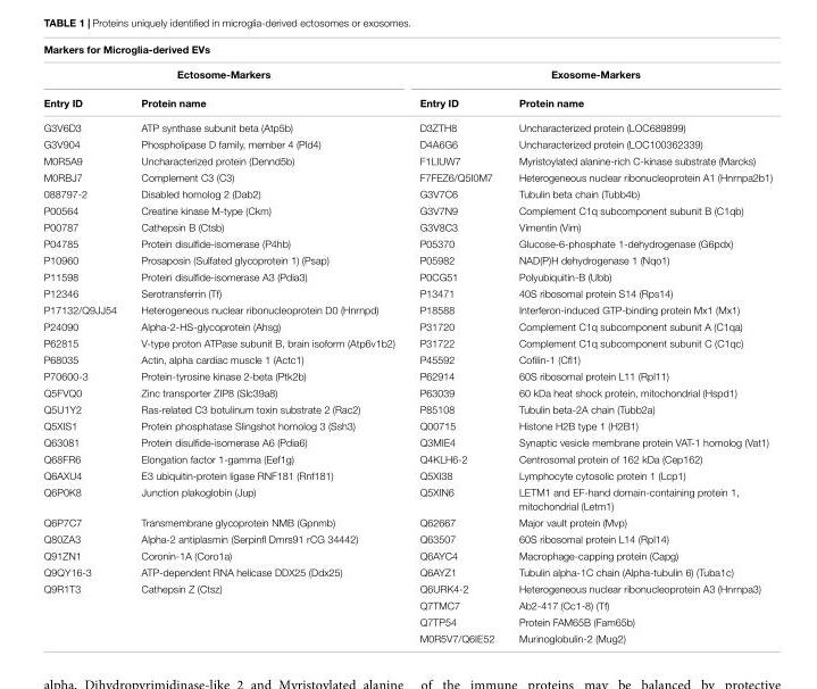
<table><thead><tr><td colspan="4">Markers for Microglia-derived EVs</td></tr><tr><td colspan="2">Ectosome-Markers</td><td colspan="2">Exosome-Markers</td></tr><tr><td>Entry ID</td><td>Protein name</td><td>Entry ID</td><td>Protein name</td></tr></thead><tbody><tr><td>G3V6D3</td><td>ATP synthase subunit beta (Atp5b)</td><td>D3ZTH8</td><td>Uncharacterized protein (LOC689899)</td></tr><tr><td>G3V904</td><td>Phospholipase D family, member 4 (Pld4)</td><td>D4A6G6</td><td>Uncharacterized protein (LOC100362339)</td></tr><tr><td>M0R5A9</td><td>Uncharacterized protein (Dennd5b)</td><td>F1LIUW7</td><td>Myristoylated alanine-rich C-kinase substrate (Marcks)</td></tr><tr><td>M0RBJ7</td><td>Complement C3 (C3)</td><td>F7FEZ6/Q5I0M7</td><td>Heterogeneous nuclear ribonucleoprotein A1 (Hnrnpa2b1)</td></tr><tr><td>088797-2</td><td>Disabled homolog 2 (Dab2)</td><td>G3V7C6</td><td>Tubulin beta chain (Tubb4b)</td></tr><tr><td>P00564</td><td>Creatine kinase M-type (Ckm)</td><td>G3V7N9</td><td>Complement C1q subcomponent subunit B (C1qb)</td></tr><tr><td>P00787</td><td>Cathepsin B (Ctsb)</td><td>G3V8C3</td><td>Vimentin (Vim)</td></tr><tr><td>P04785</td><td>Protein disulfide-isomerase (P4hb)</td><td>P05370</td><td>Glucose-6-phosphate 1-dehydrogenase (G6pdx)</td></tr><tr><td>P10960</td><td>Prosaposin (Sulfated glycoprotein 1) (Psap)</td><td>P05982</td><td>NAD(P)H dehydrogenase 1 (Nqo1)</td></tr><tr><td>P11598</td><td>Protein disulfide-isomerase A3 (Pdia3)</td><td>P0CG51</td><td>Polyubiquitin-B (Ubb)</td></tr><tr><td>P12346</td><td>Serotransferrin (Tf)</td><td>P13471</td><td>40S ribosomal protein S14 (Rps14)</td></tr><tr><td>P17132/Q9JJ54</td><td>Heterogeneous nuclear ribonucleoprotein D0 (Hnrnpd)</td><td>P18588</td><td>Interferon-induced GTP-binding protein Mx1 (Mx1)</td></tr><tr><td>P24090</td><td>Alpha-2-HS-glycoprotein (Ahsg)</td><td>P31720</td><td>Complement C1q subcomponent subunit A (C1qa)</td></tr><tr><td>P62815</td><td>V-type proton ATPase subunit B, brain isoform (Atp6v1b2)</td><td>P31722</td><td>Complement C1q subcomponent subunit C (C1qc)</td></tr><tr><td>P68035</td><td>Actin, alpha cardiac muscle 1 (Actc1)</td><td>P45592</td><td>Cofilin-1 (Cfl1)</td></tr><tr><td>P70600-3</td><td>Protein-tyrosine kinase 2-beta (Ptk2b)</td><td>P62914</td><td>60S ribosomal protein L11 (Rpl11)</td></tr><tr><td>Q5FVQ0</td><td>Zinc transporter ZIP8 (Slc39a8)</td><td>P63039</td><td>60 kDa heat shock protein, mitochondrial (Hspd1)</td></tr><tr><td>Q5U1Y2</td><td>Ras-related C3 botulinum toxin substrate 2 (Rac2)</td><td>P85108</td><td>Tubulin beta-2A chain (Tubb2a)</td></tr><tr><td>Q5XIS1</td><td>Protein phosphatase Slingshot homolog 3 (Ssh3)</td><td>Q00715</td><td>Histone H2B type 1 (H2B1)</td></tr><tr><td>Q63081</td><td>Protein disulfide-isomerase A6 (Pdia6)</td><td>Q3MIE4</td><td>Synaptic vesicle membrane protein VAT-1 homolog (Vat1)</td></tr><tr><td>Q68FR6</td><td>Elongation factor 1-gamma (Eef1g)</td><td>Q4KLH6-2</td><td>Centrosomal protein of 162 kDa (Cep162)</td></tr><tr><td>Q6AXU4</td><td>E3 ubiquitin-protein ligase RNF181 (Rnf181)</td><td>Q5XI38</td><td>Lymphocyte cytosolic protein 1 (Lcp1)</td></tr><tr><td>Q6P0K8</td><td>Junction plakoglobin (Jup)</td><td>Q5XIN6</td><td>LETM1 and EF-hand domain-containing protein 1, mitochondrial (Letm1)</td></tr><tr><td>Q6P7C7</td><td>Transmembrane glycoprotein NMB (Gpnmb)</td><td>Q62667</td><td>Major vault protein (Mvp)</td></tr><tr><td>Q80ZA3</td><td>Alpha-2 antiplasmin (Serpinfl Dmrs91 rCG 34442)</td><td>Q63507</td><td>60S ribosomal protein L14 (Rpl14)</td></tr><tr><td>Q91ZN1</td><td>Coronin-1A (Coro1a)</td><td>Q6AYC4</td><td>Macrophage-capping protein (Capg)</td></tr><tr><td>Q9QY16-3</td><td>ATP-dependent RNA helicase DDX25 (Ddx25)</td><td>Q6AYZ1</td><td>Tubulin alpha-1C chain (Alpha-tubulin 6) (Tuba1c)</td></tr><tr><td rowspan="4">Q9R1T3</td><td>Cathepsin Z (Ctsz)</td><td>Q6URK4-2</td><td>Heterogeneous nuclear ribonucleoprotein A3 (Hnrnpa3)</td></tr><tr><td></td><td>Q7TMC7</td><td>Ab2-417 (Cc1-8) (Tf)</td></tr><tr><td></td><td>Q7TP54</td><td>Protein FAM65B (Fam65b)</td></tr><tr><td></td><td>M0R5V7/Q6IE52</td><td>Murinoglobulin-2 (Mug2)</td></tr></tbody></table>